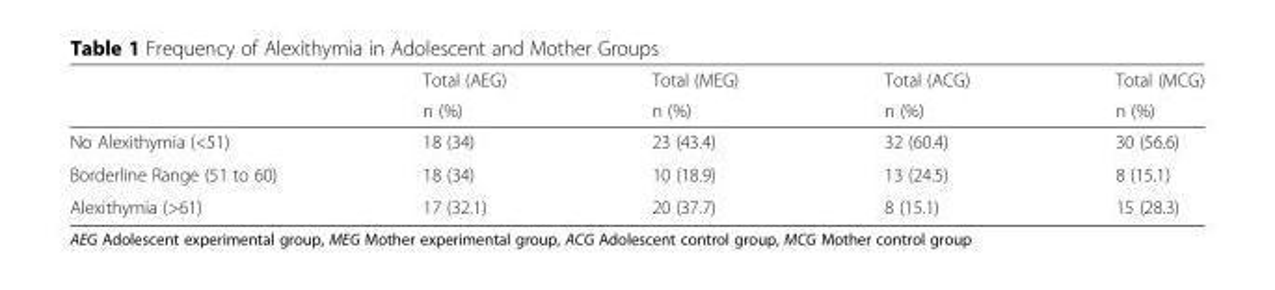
<table><thead><tr><td rowspan="2"></td><td rowspan="2">Total (AEG) n (%)</td><td rowspan="2">Total (MEG) n (%)</td><td rowspan="2">Total (ACG) n (%)</td><td rowspan="2">Total (MCG) n (%)</td></tr><tr></tr></thead><tbody><tr><td>No Alexithymia (&lt;51)</td><td>18 (34)</td><td>23 (43.4)</td><td>32 (60.4)</td><td>30 (56.6)</td></tr><tr><td>Borderline Range (51 to 60)</td><td>18 (34)</td><td>10 (18.9)</td><td>13 (24.5)</td><td>8 (15.1)</td></tr><tr><td>Alexithymia (&gt;61)</td><td>17 (32.1)</td><td>20 (37.7)</td><td>8 (15.1)</td><td>15 (28.3)</td></tr></tbody></table>